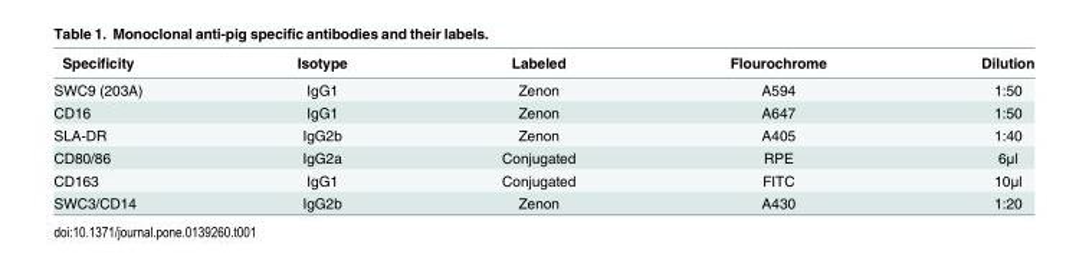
<table><thead><tr><td>Specificity</td><td>Isotype</td><td>Labeled</td><td>Flourochrome</td><td>Dilution</td></tr></thead><tbody><tr><td>SWC9 (203A)</td><td>IgG1</td><td>Zenon</td><td>A594</td><td>1:50</td></tr><tr><td>CD16</td><td>IgG1</td><td>Zenon</td><td>A647</td><td>1:50</td></tr><tr><td>SLA-DR</td><td>IgG2b</td><td>Zenon</td><td>A405</td><td>1:40</td></tr><tr><td>CD80/86</td><td>IgG2a</td><td>Conjugated</td><td>RPE</td><td>6μl</td></tr><tr><td>CD163</td><td>IgG1</td><td>Conjugated</td><td>FITC</td><td>10μl</td></tr><tr><td>SWC3/CD14</td><td>IgG2b</td><td>Zenon</td><td>A430</td><td>1:20</td></tr></tbody></table>